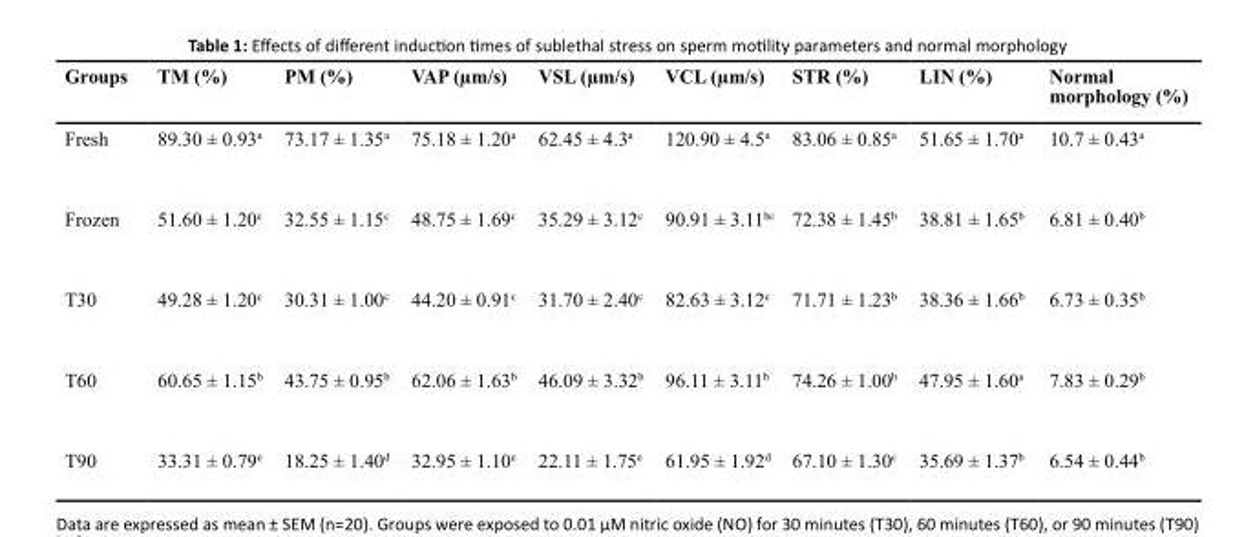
<table><thead><tr><td>Groups</td><td>TM (%)</td><td>PM (%)</td><td>VAP (µm/s)</td><td>VSL (µm/s)</td><td>VCL (µm/s)</td><td>STR (%)</td><td>LIN (%)</td><td>Normal morphology (%)</td></tr></thead><tbody><tr><td>Fresh</td><td>89.30 ± 0.93<sup>a</sup></td><td>73.17 ± 1.35<sup>a</sup></td><td>75.18 ± 1.20<sup>a</sup></td><td>62.45 ± 4.3<sup>a</sup></td><td>120.90 ± 4.5<sup>a</sup></td><td>83.06 ± 0.85<sup>a</sup></td><td>51.65 ± 1.70<sup>a</sup></td><td>10.7 ± 0.43<sup>a</sup></td></tr><tr><td>Frozen</td><td>51.60 ± 1.20<sup>c</sup></td><td>32.55 ± 1.15<sup>c</sup></td><td>48.75 ± 1.69<sup>c</sup></td><td>35.29 ± 3.12<sup>c</sup></td><td>90.91 ± 3.11<sup>bc</sup></td><td>72.38 ± 1.45<sup>b</sup></td><td>38.81 ± 1.65<sup>b</sup></td><td>6.81 ± 0.40<sup>b</sup></td></tr><tr><td>T30</td><td>49.28 ± 1.20<sup>c</sup></td><td>30.31 ± 1.00<sup>c</sup></td><td>44.20 ± 0.91<sup>c</sup></td><td>31.70 ± 2.40<sup>c</sup></td><td>82.63 ± 3.12<sup>c</sup></td><td>71.71 ± 1.23<sup>b</sup></td><td>38.36 ± 1.66<sup>b</sup></td><td>6.73 ± 0.35<sup>b</sup></td></tr><tr><td>T60</td><td>60.65 ± 1.15<sup>b</sup></td><td>43.75 ± 0.95<sup>b</sup></td><td>62.06 ± 1.63<sup>b</sup></td><td>46.09 ± 3.32<sup>b</sup></td><td>96.11 ± 3.11<sup>b</sup></td><td>74.26 ± 1.00<sup>b</sup></td><td>47.95 ± 1.60<sup>a</sup></td><td>7.83 ± 0.29<sup>b</sup></td></tr><tr><td>T90</td><td>33.31 ± 0.79<sup>e</sup></td><td>18.25 ± 1.40<sup>d</sup></td><td>32.95 ± 1.10<sup>e</sup></td><td>22.11 ± 1.75<sup>e</sup></td><td>61.95 ± 1.92<sup>d</sup></td><td>67.10 ± 1.30<sup>c</sup></td><td>35.69 ± 1.37<sup>b</sup></td><td>6.54 ± 0.44<sup>b</sup></td></tr></tbody></table>